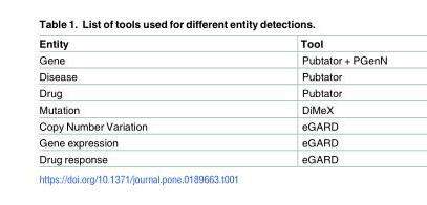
<table><thead><tr><td>Entity</td><td>Tool</td></tr></thead><tbody><tr><td>Gene</td><td>Pubtator + PGenN</td></tr><tr><td>Disease</td><td>Pubtator</td></tr><tr><td>Drug</td><td>Pubtator</td></tr><tr><td>Mutation</td><td>DiMeX</td></tr><tr><td>Copy Number Variation</td><td>eGARD</td></tr><tr><td>Gene expression</td><td>eGARD</td></tr><tr><td>Drug response</td><td>eGARD</td></tr></tbody></table>